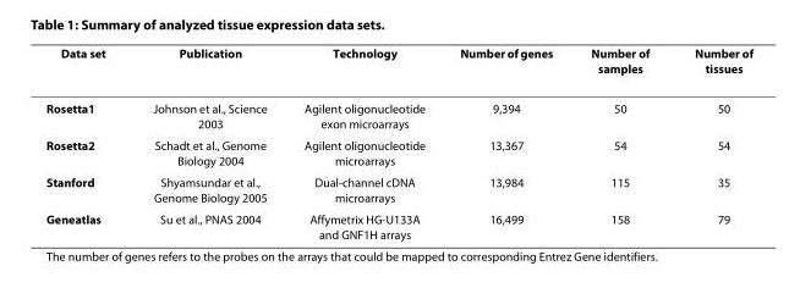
<table><thead><tr><td>Data set</td><td>Publication</td><td>Technology</td><td>Number of genes</td><td>Number of samples</td><td>Number of tissues</td></tr></thead><tbody><tr><td>Rosetta1</td><td>Johnson et al., Science 2003</td><td>Agilent oligonucleotide exon microarrays</td><td>9,394</td><td>50</td><td>50</td></tr><tr><td>Rosetta2</td><td>Schadt et al., Genome Biology 2004</td><td>Agilent oligonucleotide microarrays</td><td>13,367</td><td>54</td><td>54</td></tr><tr><td>Stanford</td><td>Shyamsundar et al., Genome Biology 2005</td><td>Dual-channel cDNA microarrays</td><td>13,984</td><td>115</td><td>35</td></tr><tr><td>Geneatlas</td><td>Su et al., PNAS 2004</td><td>Affymetrix HG-U133A and GNF1H arrays</td><td>16,499</td><td>158</td><td>79</td></tr></tbody></table>